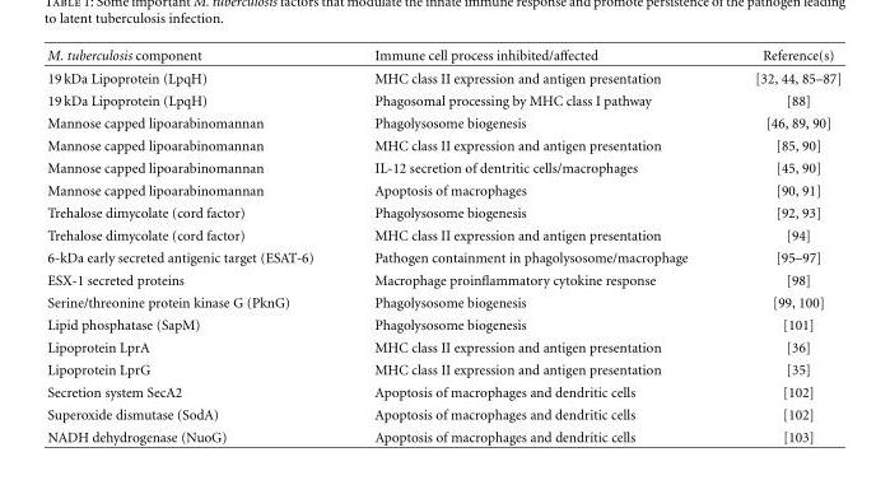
<table><thead><tr><td>M. tuberculosis component</td><td>Immune cell process inhibited/affected</td><td>Reference(s)</td></tr></thead><tbody><tr><td>19 kDa Lipoprotein (LpqH)</td><td>MHC class II expression and antigen presentation</td><td>[32, 44, 85–87]</td></tr><tr><td>19 kDa Lipoprotein (LpqH)</td><td>Phagosomal processing by MHC class I pathway</td><td>[88]</td></tr><tr><td>Mannose capped lipoarabinomannan</td><td>Phagolysosome biogenesis</td><td>[46, 89, 90]</td></tr><tr><td>Mannose capped lipoarabinomannan</td><td>MHC class II expression and antigen presentation</td><td>[85, 90]</td></tr><tr><td>Mannose capped lipoarabinomannan</td><td>IL-12 secretion of dentritic cells/macrophages</td><td>[45, 90]</td></tr><tr><td>Mannose capped lipoarabinomannan</td><td>Apoptosis of macrophages</td><td>[90, 91]</td></tr><tr><td>Trehalose dimycolate (cord factor)</td><td>Phagolysosome biogenesis</td><td>[92, 93]</td></tr><tr><td>Trehalose dimycolate (cord factor)</td><td>MHC class II expression and antigen presentation</td><td>[94]</td></tr><tr><td>6-kDa early secreted antigenic target (ESAT-6)</td><td>Pathogen containment in phagolysosome/macrophage</td><td>[95–97]</td></tr><tr><td>ESX-1 secreted proteins</td><td>Macrophage proinflammatory cytokine response</td><td>[98]</td></tr><tr><td>Serine/threonine protein kinase G (PknG)</td><td>Phagolysosome biogenesis</td><td>[99, 100]</td></tr><tr><td>Lipid phosphatase (SapM)</td><td>Phagolysosome biogenesis</td><td>[101]</td></tr><tr><td>Lipoprotein LprA</td><td>MHC class II expression and antigen presentation</td><td>[36]</td></tr><tr><td>Lipoprotein LprG</td><td>MHC class II expression and antigen presentation</td><td>[35]</td></tr><tr><td>Secretion system SecA2</td><td>Apoptosis of macrophages and dendritic cells</td><td>[102]</td></tr><tr><td>Superoxide dismutase (SodA)</td><td>Apoptosis of macrophages and dendritic cells</td><td>[102]</td></tr><tr><td>NADH dehydrogenase (NuoG)</td><td>Apoptosis of macrophages and dendritic cells</td><td>[103]</td></tr></tbody></table>